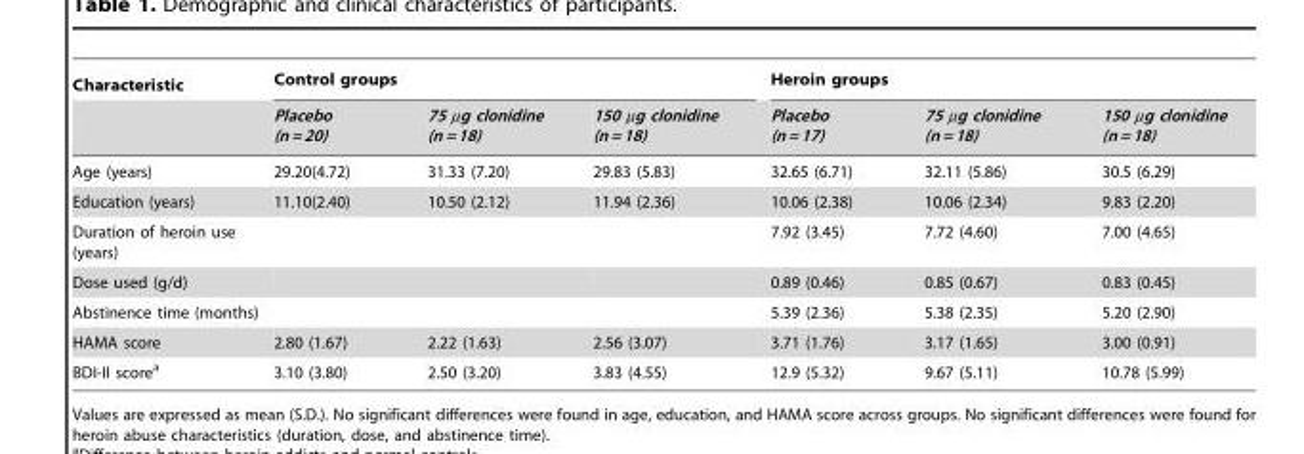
<table><thead><tr><td rowspan="2">Characteristic</td><td colspan="3">Control groups</td><td colspan="3">Heroin groups</td></tr><tr><td>Placebo (n = 20)</td><td>75 µg clonidine (n = 18)</td><td>150 µg clonidine (n = 18)</td><td>Placebo (n = 17)</td><td>75 µg clonidine (n = 18)</td><td>150 µg clonidine (n = 18)</td></tr></thead><tbody><tr><td>Age (years)</td><td>29.20(4.72)</td><td>31.33 (7.20)</td><td>29.83 (5.83)</td><td>32.65 (6.71)</td><td>32.11 (5.86)</td><td>30.5 (6.29)</td></tr><tr><td>Education (years)</td><td>11.10(2.40)</td><td>10.50 (2.12)</td><td>11.94 (2.36)</td><td>10.06 (2.38)</td><td>10.06 (2.34)</td><td>9.83 (2.20)</td></tr><tr><td>Duration of heroin use (years)</td><td></td><td></td><td></td><td>7.92 (3.45)</td><td>7.72 (4.60)</td><td>7.00 (4.65)</td></tr><tr><td>Dose used (g/d)</td><td></td><td></td><td></td><td>0.89 (0.46)</td><td>0.85 (0.67)</td><td>0.83 (0.45)</td></tr><tr><td>Abstinence time (months)</td><td></td><td></td><td></td><td>5.39 (2.36)</td><td>5.38 (2.35)</td><td>5.20 (2.90)</td></tr><tr><td>HAMA score</td><td>2.80 (1.67)</td><td>2.22 (1.63)</td><td>2.56 (3.07)</td><td>3.71 (1.76)</td><td>3.17 (1.65)</td><td>3.00 (0.91)</td></tr><tr><td>BDI-II score<sup>a</sup></td><td>3.10 (3.80)</td><td>2.50 (3.20)</td><td>3.83 (4.55)</td><td>12.9 (5.32)</td><td>9.67 (5.11)</td><td>10.78 (5.99)</td></tr></tbody></table>